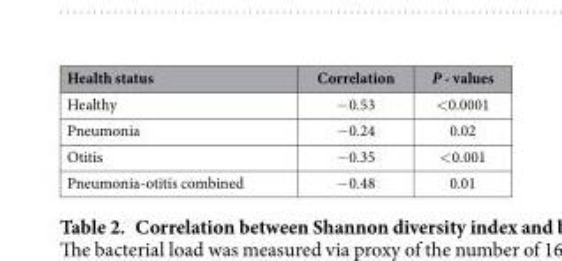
<table><thead><tr><td>Health status</td><td>Correlation</td><td>P - values</td></tr></thead><tbody><tr><td>Healthy</td><td>− 0.53</td><td>&lt; 0.0001</td></tr><tr><td>Pneumonia</td><td>− 0.24</td><td>0.02</td></tr><tr><td>Otitis</td><td>− 0.35</td><td>&lt; 0.001</td></tr><tr><td>Pneumonia-otitis combined</td><td>− 0.48</td><td>0.01</td></tr></tbody></table>